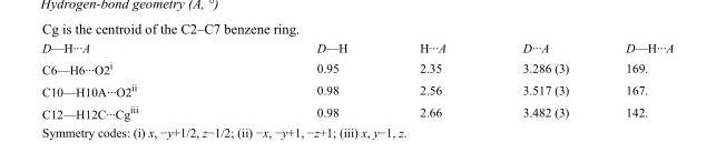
<table><tbody><tr><td>D—H···A</td><td>D—H</td><td>H···A</td><td>D···A</td><td>D—H···A</td></tr><tr><td>C6—H6···O2<sup>i</sup></td><td>0.95</td><td>2.35</td><td>3.286 (3)</td><td>169.</td></tr><tr><td>C10—H10A···O2<sup>ii</sup></td><td>0.98</td><td>2.56</td><td>3.517 (3)</td><td>167.</td></tr><tr><td>C12—H12C···Cg<sup>iii</sup></td><td>0.98</td><td>2.66</td><td>3.482 (3)</td><td>142.</td></tr></tbody></table>